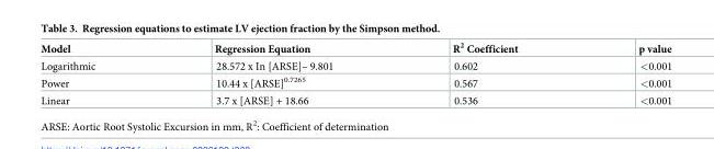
<table><thead><tr><td>Model</td><td>Regression Equation</td><td>R<sup>2</sup> Coefficient</td><td>p value</td></tr></thead><tbody><tr><td>Logarithmic</td><td>28.572 x In [ARSE]– 9.801</td><td>0.602</td><td>&lt;0.001</td></tr><tr><td>Power</td><td>10.44 x [ARSE]<sup>0.7265</sup></td><td>0.567</td><td>&lt;0.001</td></tr><tr><td>Linear</td><td>3.7 x [ARSE] + 18.66</td><td>0.536</td><td>&lt;0.001</td></tr></tbody></table>